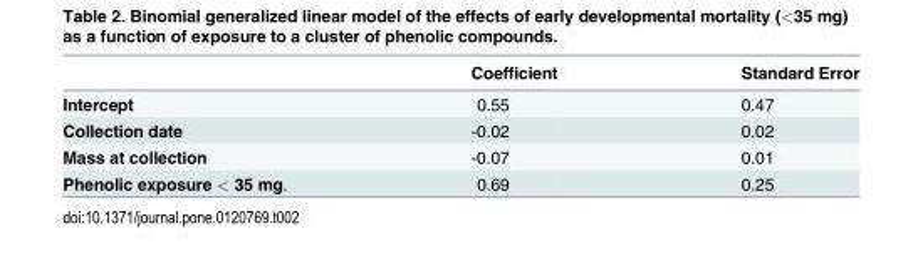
<table><thead><tr><td></td><td>Coefficient</td><td>Standard Error</td></tr></thead><tbody><tr><td>Intercept</td><td>0.55</td><td>0.47</td></tr><tr><td>Collection date</td><td>-0.02</td><td>0.02</td></tr><tr><td>Mass at collection</td><td>-0.07</td><td>0.01</td></tr><tr><td>Phenolic exposure &lt; 35 mg.</td><td>0.69</td><td>0.25</td></tr></tbody></table>